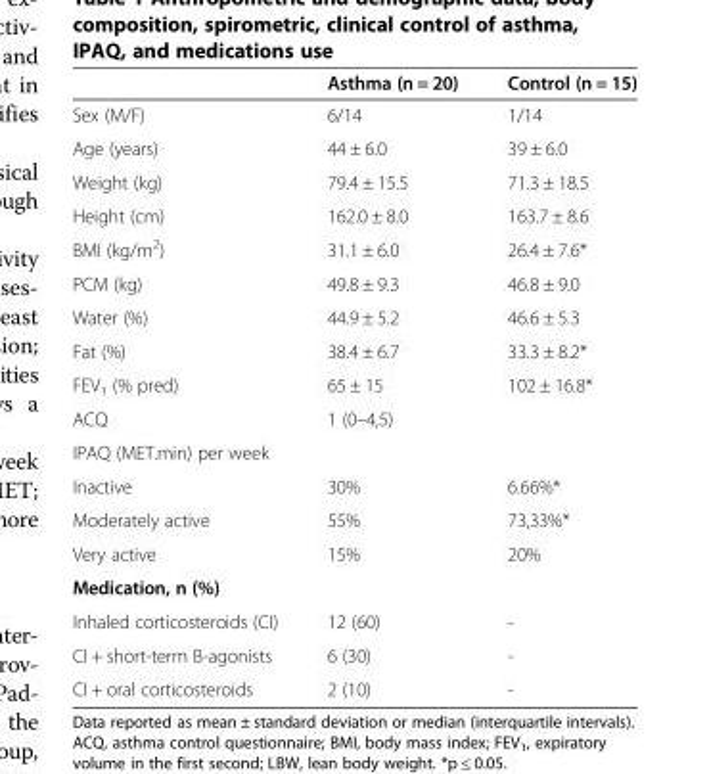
<table><thead><tr><td></td><td>Asthma (n = 20)</td><td>Control (n = 15)</td></tr></thead><tbody><tr><td>Sex (M/F)</td><td>6/14</td><td>1/14</td></tr><tr><td>Age (years)</td><td>44 ± 6.0</td><td>39 ± 6.0</td></tr><tr><td>Weight (kg)</td><td>79.4 ± 15.5</td><td>71.3 ± 18.5</td></tr><tr><td>Height (cm)</td><td>162.0 ± 8.0</td><td>163.7 ± 8.6</td></tr><tr><td>BMI (kg/m<sup>2</sup>)</td><td>31.1 ± 6.0</td><td>26.4 ± 7.6*</td></tr><tr><td>PCM (kg)</td><td>49.8 ± 9.3</td><td>46.8 ± 9.0</td></tr><tr><td>Water (%)</td><td>44.9 ± 5.2</td><td>46.6 ± 5.3</td></tr><tr><td>Fat (%)</td><td>38.4 ± 6.7</td><td>33.3 ± 8.2*</td></tr><tr><td>FEV<sub>1</sub> (% pred)</td><td>65 ± 15</td><td rowspan="3">102 ± 16.8*</td></tr><tr><td>ACQ</td><td rowspan="2">1 (0–4,5)</td></tr><tr><td>IPAQ (MET.min) per week</td></tr><tr><td>Inactive</td><td>30%</td><td>6.66%*</td></tr><tr><td>Moderately active</td><td>55%</td><td>73,33%*</td></tr><tr><td>Very active</td><td>15%</td><td>20%</td></tr><tr><td colspan="3">Medication, n (%)</td></tr><tr><td>Inhaled corticosteroids (CI)</td><td>12 (60)</td><td>-</td></tr><tr><td>CI + short-term B-agonists</td><td>6 (30)</td><td>-</td></tr><tr><td>CI + oral corticosteroids</td><td>2 (10)</td><td>-</td></tr></tbody></table>